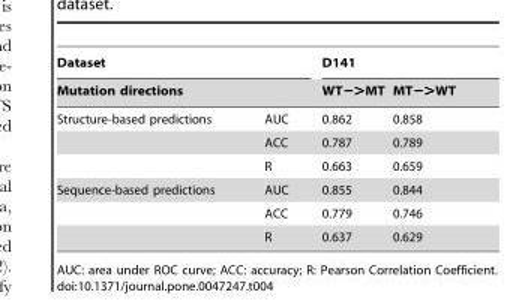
<table><thead><tr><td rowspan="2" colspan="2">Dataset Mutation directions</td><td colspan="2">D141</td></tr><tr><td rowspan="2">WT−&gt;MT 0.862</td><td rowspan="2">MT−&gt;WT 0.858</td></tr><tr><td>Structure-based predictions</td><td>AUC</td></tr></thead><tbody><tr><td></td><td>ACC</td><td>0.787</td><td>0.789</td></tr><tr><td></td><td>R</td><td>0.663</td><td>0.659</td></tr><tr><td rowspan="3">Sequence-based predictions</td><td>AUC</td><td>0.855</td><td>0.844</td></tr><tr><td>ACC</td><td>0.779</td><td>0.746</td></tr><tr><td>R</td><td>0.637</td><td>0.629</td></tr></tbody></table>